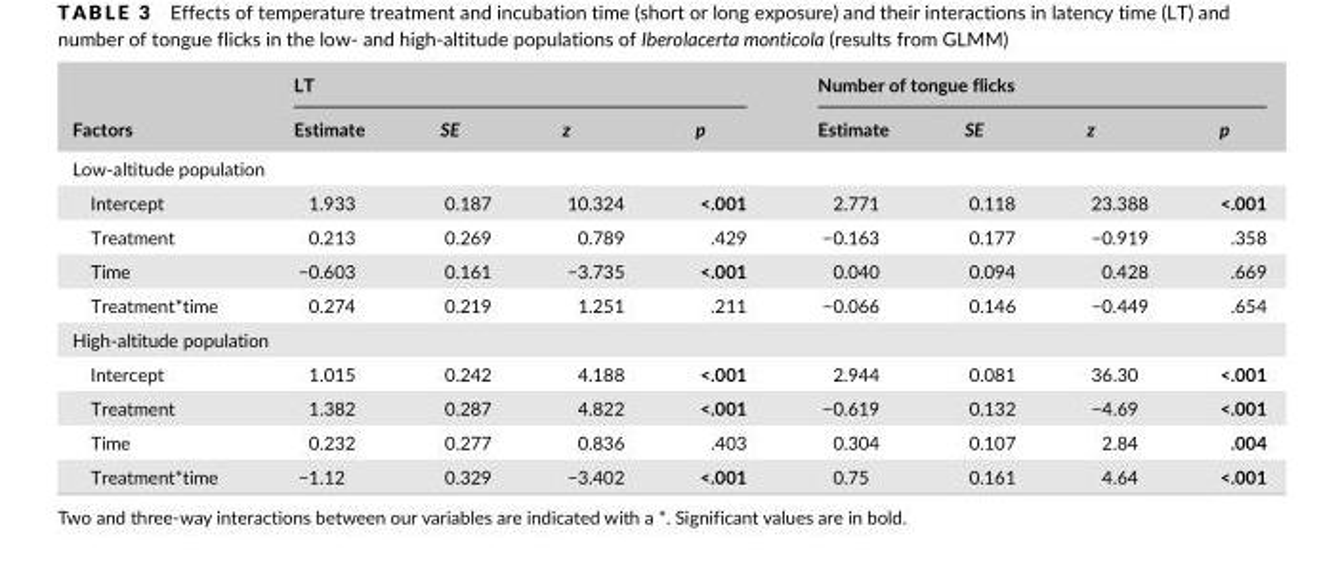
<table><thead><tr><td rowspan="2">Factors</td><td colspan="4">LT</td><td colspan="4">Number of tongue flicks</td></tr><tr><td>Estimate</td><td>SE</td><td>z</td><td>p</td><td>Estimate</td><td>SE</td><td>z</td><td>p</td></tr></thead><tbody><tr><td colspan="9">Low- altitude population</td></tr><tr><td>Intercept</td><td>1.933</td><td>0.187</td><td>10.324</td><td>&lt;.001</td><td>2.771</td><td>0.118</td><td>23.388</td><td>&lt;.001</td></tr><tr><td>Treatment</td><td>0.213</td><td>0.269</td><td>0.789</td><td>.429</td><td>−0.163</td><td>0.177</td><td>−0.919</td><td>.358</td></tr><tr><td>Time</td><td>−0.603</td><td>0.161</td><td>−3.735</td><td>&lt;.001</td><td>0.040</td><td>0.094</td><td>0.428</td><td>.669</td></tr><tr><td>Treatment*time</td><td>0.274</td><td>0.219</td><td>1.251</td><td>.211</td><td>−0.066</td><td>0.146</td><td>−0.449</td><td>.654</td></tr><tr><td colspan="9">High- altitude population</td></tr><tr><td>Intercept</td><td>1.015</td><td>0.242</td><td>4.188</td><td>&lt;.001</td><td>2.944</td><td>0.081</td><td>36.30</td><td>&lt;.001</td></tr><tr><td>Treatment</td><td>1.382</td><td>0.287</td><td>4.822</td><td>&lt;.001</td><td>−0.619</td><td>0.132</td><td>−4.69</td><td>&lt;.001</td></tr><tr><td>Time</td><td>0.232</td><td>0.277</td><td>0.836</td><td>.403</td><td>0.304</td><td>0.107</td><td>2.84</td><td>.004</td></tr><tr><td>Treatment*time</td><td>−1.12</td><td>0.329</td><td>−3.402</td><td>&lt;.001</td><td>0.75</td><td>0.161</td><td>4.64</td><td>&lt;.001</td></tr></tbody></table>